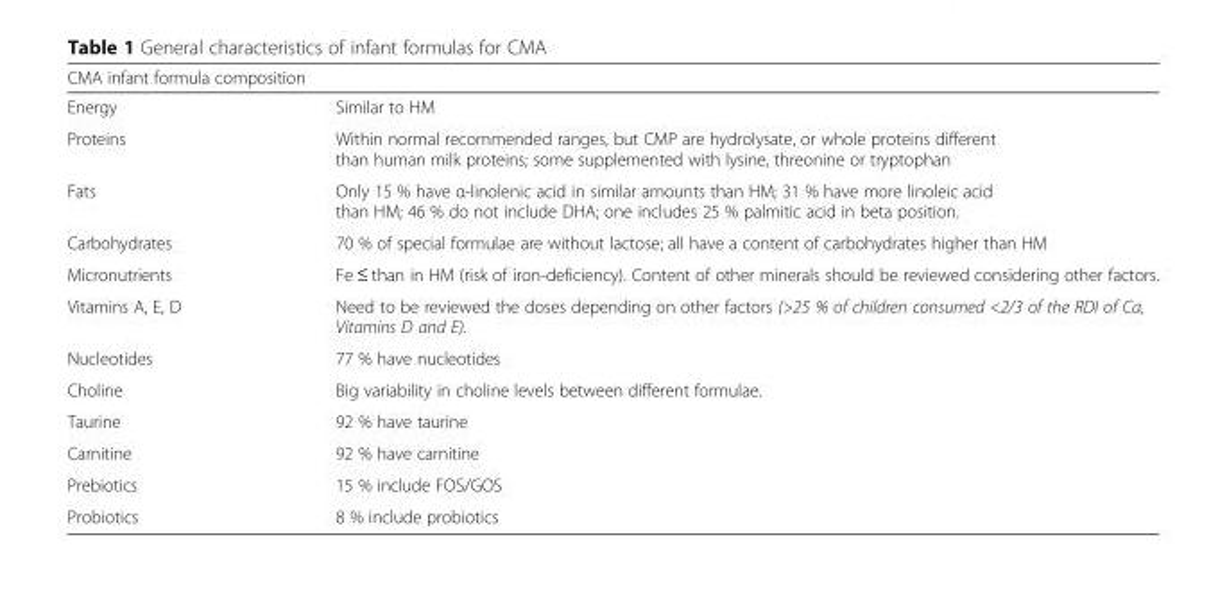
<table><thead><tr><td>CMA infant formula composition</td><td></td></tr></thead><tbody><tr><td>Energy</td><td>Similar to HM</td></tr><tr><td>Proteins</td><td>Within normal recommended ranges, but CMP are hydrolysate, or whole proteins different than human milk proteins; some supplemented with lysine, threonine or tryptophan</td></tr><tr><td>Fats</td><td>Only 15 % have α-linolenic acid in similar amounts than HM; 31 % have more linoleic acid than HM; 46 % do not include DHA; one includes 25 % palmitic acid in beta position.</td></tr><tr><td>Carbohydrates</td><td>70 % of special formulae are without lactose; all have a content of carbohydrates higher than HM</td></tr><tr><td>Micronutrients</td><td>Fe ≤ than in HM (risk of iron-deficiency). Content of other minerals should be reviewed considering other factors.</td></tr><tr><td>Vitamins A, E, D</td><td>Need to be reviewed the doses depending on other factors (&gt;25 % of children consumed &lt;2/3 of the RDI of Ca, Vitamins D and E).</td></tr><tr><td>Nucleotides</td><td>77 % have nucleotides</td></tr><tr><td>Choline</td><td>Big variability in choline levels between different formulae.</td></tr><tr><td>Taurine</td><td>92 % have taurine</td></tr><tr><td>Carnitine</td><td>92 % have carnitine</td></tr><tr><td>Prebiotics</td><td>15 % include FOS/GOS</td></tr><tr><td>Probiotics</td><td>8 % include probiotics</td></tr></tbody></table>